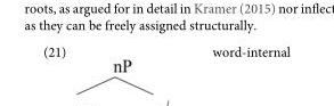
<table><tbody><tr><td>(21)</td><td>word-internal</td></tr></tbody></table>